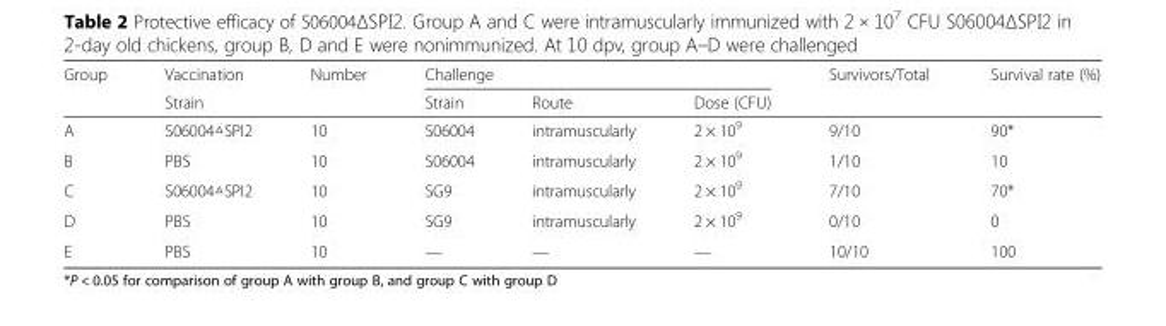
<table><thead><tr><td rowspan="2">Group</td><td rowspan="2">Vaccination Strain</td><td rowspan="2">Number</td><td colspan="3">Challenge</td><td rowspan="2">Survivors/Total</td><td rowspan="2">Survival rate (%)</td></tr><tr><td>Strain</td><td>Route</td><td>Dose (CFU)</td></tr></thead><tbody><tr><td>A</td><td>S06004△SPI2</td><td>10</td><td>S06004</td><td>intramuscularly</td><td>2 × 10<sup>9</sup></td><td>9/10</td><td>90*</td></tr><tr><td>B</td><td>PBS</td><td>10</td><td>S06004</td><td>intramuscularly</td><td>2 × 10<sup>9</sup></td><td>1/10</td><td>10</td></tr><tr><td>C</td><td>S06004△SPI2</td><td>10</td><td>SG9</td><td>intramuscularly</td><td>2 × 10<sup>9</sup></td><td>7/10</td><td>70*</td></tr><tr><td>D</td><td>PBS</td><td>10</td><td>SG9</td><td>intramuscularly</td><td>2 × 10<sup>9</sup></td><td>0/10</td><td>0</td></tr><tr><td>E</td><td>PBS</td><td>10</td><td>—</td><td>—</td><td>—</td><td>10/10</td><td>100</td></tr></tbody></table>